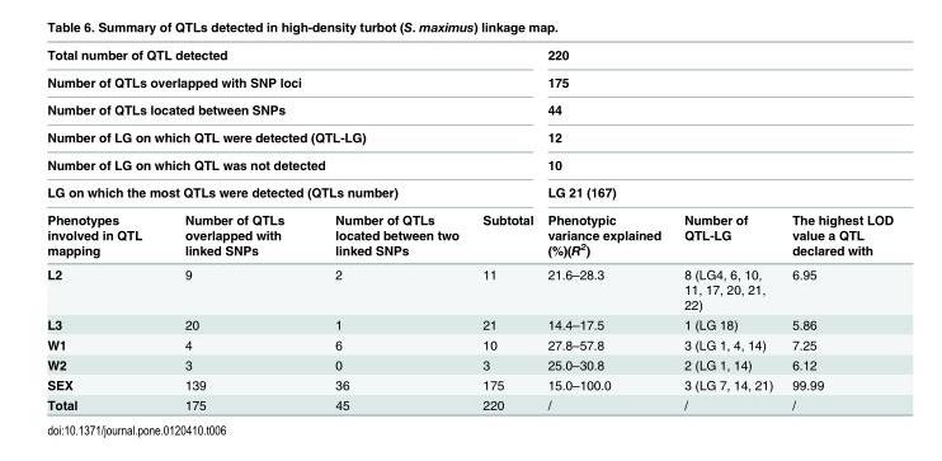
<table><thead><tr><td rowspan="6" colspan="4">Total number of QTL detected Number of QTLs overlapped with SNP loci Number of QTLs located between SNPs Number of LG on which QTL were detected (QTL-LG) Number of LG on which QTL was not detected LG on which the most QTLs were detected (QTLs number)</td><td rowspan="6" colspan="3">220 175 44 12 10 LG 21 (167)</td></tr><tr></tr><tr></tr><tr></tr><tr></tr><tr></tr><tr><td>Phenotypes involved in QTL mapping</td><td>Number of QTLs overlapped with linked SNPs</td><td>Number of QTLs located between two linked SNPs</td><td>Subtotal</td><td>Phenotypic variance explained (%)(R<sup>2</sup>)</td><td>Number of QTL-LG</td><td>The highest LOD value a QTL declared with</td></tr></thead><tbody><tr><td>L2</td><td>9</td><td>2</td><td>11</td><td>21.6–28.3</td><td>8 (LG4, 6, 10, 11, 17, 20, 21, 22)</td><td>6.95</td></tr><tr><td>L3</td><td>20</td><td>1</td><td>21</td><td>14.4–17.5</td><td>1 (LG 18)</td><td>5.86</td></tr><tr><td>W1</td><td>4</td><td>6</td><td>10</td><td>27.8–57.8</td><td>3 (LG 1, 4, 14)</td><td>7.25</td></tr><tr><td>W2</td><td>3</td><td>0</td><td>3</td><td>25.0–30.8</td><td>2 (LG 1, 14)</td><td>6.12</td></tr><tr><td>SEX</td><td>139</td><td>36</td><td>175</td><td>15.0–100.0</td><td>3 (LG 7, 14, 21)</td><td>99.99</td></tr><tr><td>Total</td><td>175</td><td>45</td><td>220</td><td>/</td><td>/</td><td>/</td></tr></tbody></table>